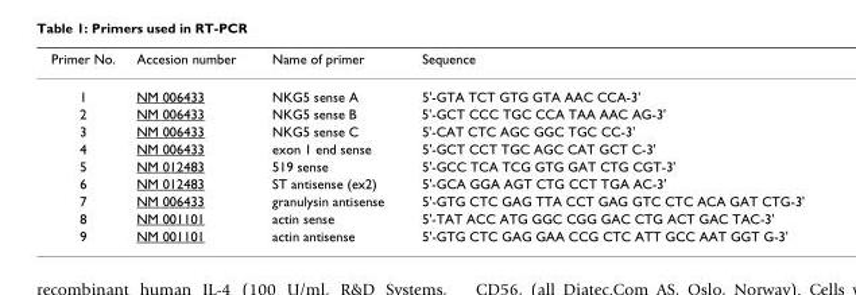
<table><thead><tr><td>Primer No.</td><td>Accesion number</td><td>Name of primer</td><td>Sequence</td></tr></thead><tbody><tr><td>1</td><td>NM 006433</td><td>NKG5 sense A</td><td>5&#x27;-GTA TCT GTG GTA AAC CCA-3&#x27;</td></tr><tr><td>2</td><td>NM 006433</td><td>NKG5 sense B</td><td>5&#x27;-GCT CCC TGC CCA TAA AAC AG-3&#x27;</td></tr><tr><td>3</td><td>NM 006433</td><td>NKG5 sense C</td><td>5&#x27;-CAT CTC AGC GGC TGC CC-3&#x27;</td></tr><tr><td>4</td><td>NM 006433</td><td>exon 1 end sense</td><td>5&#x27;-GCT CCT TGC AGC CAT GCT C-3&#x27;</td></tr><tr><td>5</td><td>NM 012483</td><td>519 sense</td><td>5&#x27;-GCC TCA TCG GTG GAT CTG CGT-3&#x27;</td></tr><tr><td>6</td><td>NM 012483</td><td>ST antisense (ex2)</td><td>5&#x27;-GCA GGA AGT CTG CCT TGA AC-3&#x27;</td></tr><tr><td>7</td><td>NM 006433</td><td>granulysin antisense</td><td>5&#x27;-GTG CTC GAG TTA CCT GAG GTC CTC ACA GAT CTG-3&#x27;</td></tr><tr><td>8</td><td>NM 001101</td><td>actin sense</td><td>5&#x27;-TAT ACC ATG GGC CGG GAC CTG ACT GAC TAC-3&#x27;</td></tr><tr><td>9</td><td>NM 001101</td><td>actin antisense</td><td>5&#x27;-GTG CTC GAG GAA CCG CTC ATT GCC AAT GGT G-3&#x27;</td></tr></tbody></table>